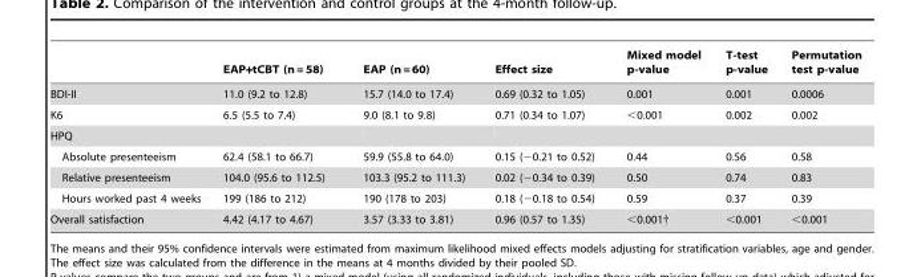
<table><thead><tr><td></td><td>EAP+tCBT (n = 58)</td><td>EAP (n = 60)</td><td>Effect size</td><td>Mixed model p-value</td><td>T-test p-value</td><td>Permutation test p-value</td></tr></thead><tbody><tr><td>BDI-II</td><td>11.0 (9.2 to 12.8)</td><td>15.7 (14.0 to 17.4)</td><td>0.69 (0.32 to 1.05)</td><td>0.001</td><td>0.001</td><td>0.0006</td></tr><tr><td>K6</td><td>6.5 (5.5 to 7.4)</td><td>9.0 (8.1 to 9.8)</td><td>0.71 (0.34 to 1.07)</td><td>&lt;0.001</td><td>0.002</td><td>0.002</td></tr><tr><td colspan="7">HPQ</td></tr><tr><td>Absolute presenteeism</td><td>62.4 (58.1 to 66.7)</td><td>59.9 (55.8 to 64.0)</td><td>0.15 (−0.21 to 0.52)</td><td>0.44</td><td>0.56</td><td>0.58</td></tr><tr><td>Relative presenteeism</td><td>104.0 (95.6 to 112.5)</td><td>103.3 (95.2 to 111.3)</td><td>0.02 (−0.34 to 0.39)</td><td>0.50</td><td>0.74</td><td>0.83</td></tr><tr><td>Hours worked past 4 weeks</td><td>199 (186 to 212)</td><td>190 (178 to 203)</td><td>0.18 (−0.18 to 0.54)</td><td>0.59</td><td>0.37</td><td>0.39</td></tr><tr><td>Overall satisfaction</td><td>4.42 (4.17 to 4.67)</td><td>3.57 (3.33 to 3.81)</td><td>0.96 (0.57 to 1.35)</td><td>&lt;0.001†</td><td>&lt;0.001</td><td>&lt;0.001</td></tr></tbody></table>